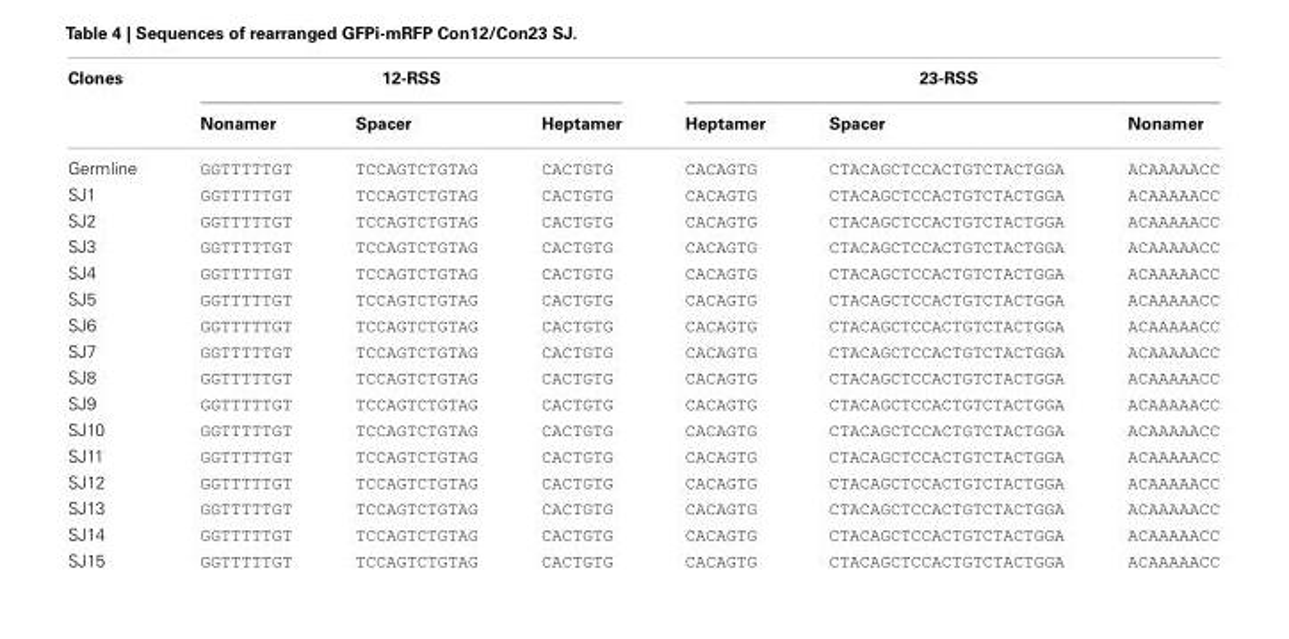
<table><thead><tr><td rowspan="2">Clones</td><td colspan="3">12-RSS</td><td colspan="3">23-RSS</td></tr><tr><td>Nonamer</td><td>Spacer</td><td>Heptamer</td><td>Heptamer</td><td>Spacer</td><td>Nonamer</td></tr></thead><tbody><tr><td>Germline</td><td>GGTTTTTGT</td><td>TCCAGTCTGTAG</td><td>CACTGTG</td><td>CACAGTG</td><td>CTACAGCTCCACTGTCTACTGGA</td><td>ACAAAAACC</td></tr><tr><td>SJ1</td><td>GGTTTTTGT</td><td>TCCAGTCTGTAG</td><td>CACTGTG</td><td>CACAGTG</td><td>CTACAGCTCCACTGTCTACTGGA</td><td>ACAAAAACC</td></tr><tr><td>SJ2</td><td>GGTTTTTGT</td><td>TCCAGTCTGTAG</td><td>CACTGTG</td><td>CACAGTG</td><td>CTACAGCTCCACTGTCTACTGGA</td><td>ACAAAAACC</td></tr><tr><td>SJ3</td><td>GGTTTTTGT</td><td>TCCAGTCTGTAG</td><td>CACTGTG</td><td>CACAGTG</td><td>CTACAGCTCCACTGTCTACTGGA</td><td>ACAAAAACC</td></tr><tr><td>SJ4</td><td>GGTTTTTGT</td><td>TCCAGTCTGTAG</td><td>CACTGTG</td><td>CACAGTG</td><td>CTACAGCTCCACTGTCTACTGGA</td><td>ACAAAAACC</td></tr><tr><td>SJ5</td><td>GGTTTTTGT</td><td>TCCAGTCTGTAG</td><td>CACTGTG</td><td>CACAGTG</td><td>CTACAGCTCCACTGTCTACTGGA</td><td>ACAAAAACC</td></tr><tr><td>SJ6</td><td>GGTTTTTGT</td><td>TCCAGTCTGTAG</td><td>CACTGTG</td><td>CACAGTG</td><td>CTACAGCTCCACTGTCTACTGGA</td><td>ACAAAAACC</td></tr><tr><td>SJ7</td><td>GGTTTTTGT</td><td>TCCAGTCTGTAG</td><td>CACTGTG</td><td>CACAGTG</td><td>CTACAGCTCCACTGTCTACTGGA</td><td>ACAAAAACC</td></tr><tr><td>SJ8</td><td>GGTTTTTGT</td><td>TCCAGTCTGTAG</td><td>CACTGTG</td><td>CACAGTG</td><td>CTACAGCTCCACTGTCTACTGGA</td><td>ACAAAAACC</td></tr><tr><td>SJ9</td><td>GGTTTTTGT</td><td>TCCAGTCTGTAG</td><td>CACTGTG</td><td>CACAGTG</td><td>CTACAGCTCCACTGTCTACTGGA</td><td>ACAAAAACC</td></tr><tr><td>SJ10</td><td>GGTTTTTGT</td><td>TCCAGTCTGTAG</td><td>CACTGTG</td><td>CACAGTG</td><td>CTACAGCTCCACTGTCTACTGGA</td><td>ACAAAAACC</td></tr><tr><td>SJ11</td><td>GGTTTTTGT</td><td>TCCAGTCTGTAG</td><td>CACTGTG</td><td>CACAGTG</td><td>CTACAGCTCCACTGTCTACTGGA</td><td>ACAAAAACC</td></tr><tr><td>SJ12</td><td>GGTTTTTGT</td><td>TCCAGTCTGTAG</td><td>CACTGTG</td><td>CACAGTG</td><td>CTACAGCTCCACTGTCTACTGGA</td><td>ACAAAAACC</td></tr><tr><td>SJ13</td><td>GGTTTTTGT</td><td>TCCAGTCTGTAG</td><td>CACTGTG</td><td>CACAGTG</td><td>CTACAGCTCCACTGTCTACTGGA</td><td>ACAAAAACC</td></tr><tr><td>SJ14</td><td>GGTTTTTGT</td><td>TCCAGTCTGTAG</td><td>CACTGTG</td><td>CACAGTG</td><td>CTACAGCTCCACTGTCTACTGGA</td><td>ACAAAAACC</td></tr><tr><td>SJ15</td><td>GGTTTTTGT</td><td>TCCAGTCTGTAG</td><td>CACTGTG</td><td>CACAGTG</td><td>CTACAGCTCCACTGTCTACTGGA</td><td>ACAAAAACC</td></tr></tbody></table>